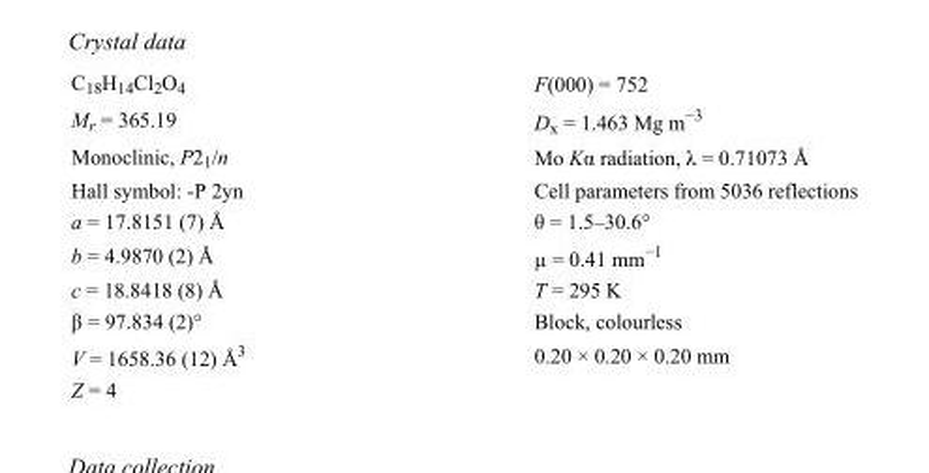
<table><tbody><tr><td>C<sub>18</sub>H<sub>14</sub>Cl<sub>2</sub>O<sub>4</sub></td><td>F(000) = 752</td></tr><tr><td>M<sub>r</sub> = 365.19</td><td>D<sub>x</sub> = 1.463 Mg m<sup>−3</sup></td></tr><tr><td>Monoclinic, P2<sub>1</sub>/n</td><td>Mo Kα radiation, λ = 0.71073 Å</td></tr><tr><td>Hall symbol: -P 2yn</td><td>Cell parameters from 5036 reflections</td></tr><tr><td>a = 17.8151 (7) Å</td><td>θ = 1.5–30.6°</td></tr><tr><td>b = 4.9870 (2) Å</td><td>µ = 0.41 mm<sup>−1</sup></td></tr><tr><td>c = 18.8418 (8) Å</td><td>T = 295 K</td></tr><tr><td>β = 97.834 (2)°</td><td>Block, colourless</td></tr><tr><td>V = 1658.36 (12) Å<sup>3</sup></td><td>0.20 × 0.20 × 0.20 mm</td></tr><tr><td>Z = 4</td><td></td></tr></tbody></table>